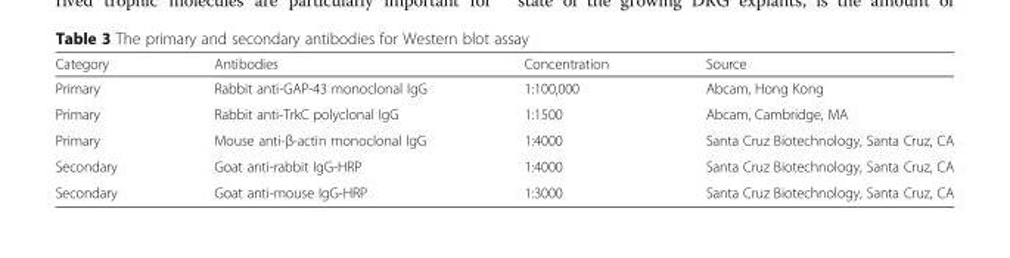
<table><thead><tr><td>Category</td><td>Antibodies</td><td>Concentration</td><td>Source</td></tr></thead><tbody><tr><td>Primary</td><td>Rabbit anti-GAP-43 monoclonal IgG</td><td>1:100,000</td><td>Abcam, Hong Kong</td></tr><tr><td>Primary</td><td>Rabbit anti-TrkC polyclonal IgG</td><td>1:1500</td><td>Abcam, Cambridge, MA</td></tr><tr><td>Primary</td><td>Mouse anti-β-actin monoclonal IgG</td><td>1:4000</td><td>Santa Cruz Biotechnology, Santa Cruz, CA</td></tr><tr><td>Secondary</td><td>Goat anti-rabbit IgG-HRP</td><td>1:4000</td><td>Santa Cruz Biotechnology, Santa Cruz, CA</td></tr><tr><td>Secondary</td><td>Goat anti-mouse IgG-HRP</td><td>1:3000</td><td>Santa Cruz Biotechnology, Santa Cruz, CA</td></tr></tbody></table>